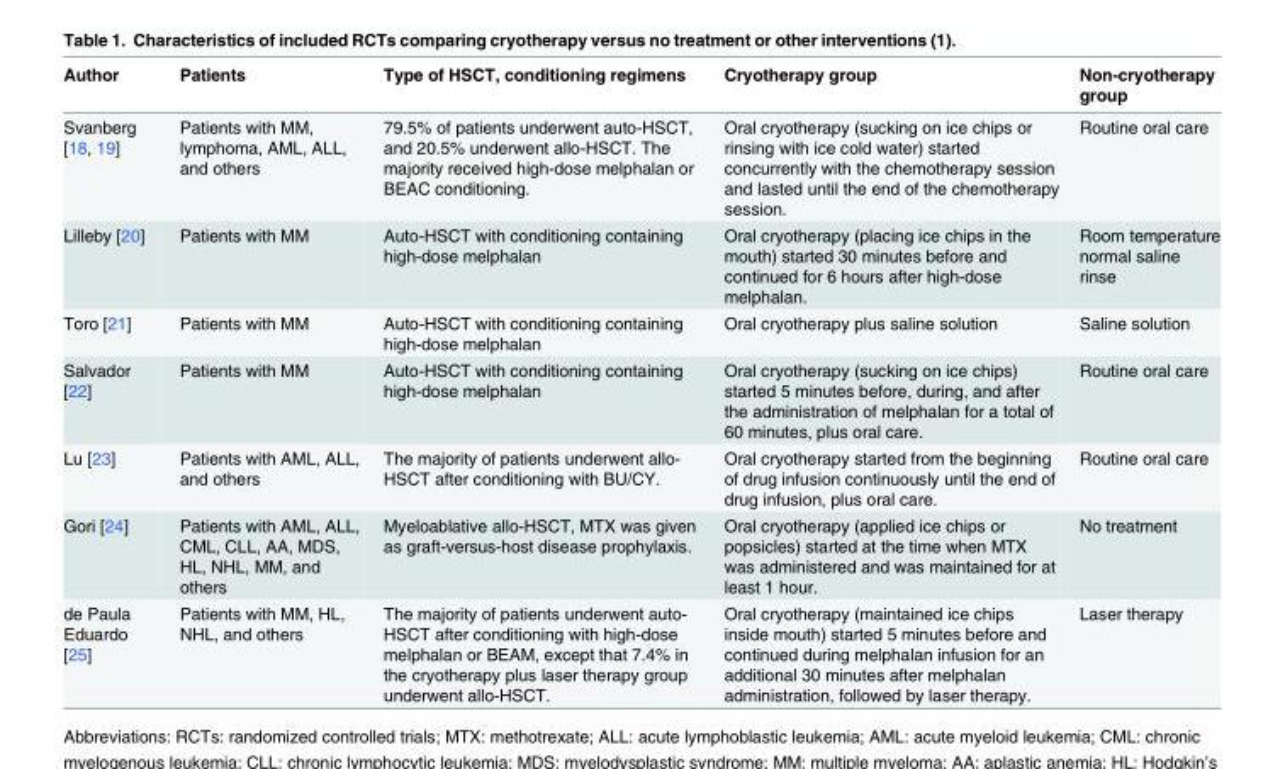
<table><thead><tr><td>Author</td><td>Patients</td><td>Type of HSCT, conditioning regimens</td><td>Cryotherapy group</td><td>Non-cryotherapy group</td></tr></thead><tbody><tr><td>Svanberg [18, 19]</td><td>Patients with MM, lymphoma, AML, ALL, and others</td><td>79.5% of patients underwent auto-HSCT, and 20.5% underwent allo-HSCT. The majority received high-dose melphalan or BEAC conditioning.</td><td>Oral cryotherapy (sucking on ice chips or rinsing with ice cold water) started concurrently with the chemotherapy session and lasted until the end of the chemotherapy session.</td><td>Routine oral care</td></tr><tr><td>Lilleby [20]</td><td>Patients with MM</td><td>Auto-HSCT with conditioning containing high-dose melphalan</td><td>Oral cryotherapy (placing ice chips in the mouth) started 30 minutes before and continued for 6 hours after high-dose melphalan.</td><td>Room temperature normal saline rinse</td></tr><tr><td>Toro [21]</td><td>Patients with MM</td><td>Auto-HSCT with conditioning containing high-dose melphalan</td><td>Oral cryotherapy plus saline solution</td><td>Saline solution</td></tr><tr><td>Salvador [22]</td><td>Patients with MM</td><td>Auto-HSCT with conditioning containing high-dose melphalan</td><td>Oral cryotherapy (sucking on ice chips) started 5 minutes before, during, and after the administration of melphalan for a total of 60 minutes, plus oral care.</td><td>Routine oral care</td></tr><tr><td>Lu [23]</td><td>Patients with AML, ALL, and others</td><td>The majority of patients underwent allo- HSCT after conditioning with BU/CY.</td><td>Oral cryotherapy started from the beginning of drug infusion continuously until the end of drug infusion, plus oral care.</td><td>Routine oral care</td></tr><tr><td>Gori [24]</td><td>Patients with AML, ALL, CML, CLL, AA, MDS, HL, NHL, MM, and others</td><td>Myeloablative allo-HSCT, MTX was given as graft-versus-host disease prophylaxis.</td><td>Oral cryotherapy (applied ice chips or popsicles) started at the time when MTX was administered and was maintained for at least 1 hour.</td><td>No treatment</td></tr><tr><td>de Paula Eduardo [25]</td><td>Patients with MM, HL, NHL, and others</td><td>The majority of patients underwent auto- HSCT after conditioning with high-dose melphalan or BEAM, except that 7.4% in the cryotherapy plus laser therapy group underwent allo-HSCT.</td><td>Oral cryotherapy (maintained ice chips inside mouth) started 5 minutes before and continued during melphalan infusion for an additional 30 minutes after melphalan administration, followed by laser therapy.</td><td>Laser therapy</td></tr></tbody></table>